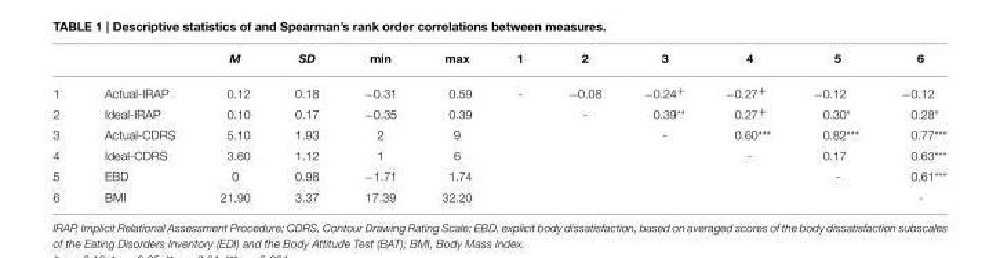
<table><thead><tr><td></td><td></td><td>M</td><td>SD</td><td>min</td><td>max</td><td>1</td><td>2</td><td>3</td><td>4</td><td>5</td><td>6</td></tr></thead><tbody><tr><td>1</td><td>Actual-IRAP</td><td>0.12</td><td>0.18</td><td>−0.31</td><td>0.59</td><td>-</td><td>−0.08</td><td>−0.24<sup>+</sup></td><td>−0.27<sup>+</sup></td><td>−0.12</td><td>−0.12</td></tr><tr><td>2</td><td>Ideal-IRAP</td><td>0.10</td><td>0.17</td><td>−0.35</td><td>0.39</td><td></td><td>-</td><td>0.39**</td><td>0.27<sup>+</sup></td><td>0.30*</td><td>0.28*</td></tr><tr><td>3</td><td>Actual-CDRS</td><td>5.10</td><td>1.93</td><td>2</td><td>9</td><td></td><td></td><td>-</td><td>0.60***</td><td>0.82***</td><td>0.77***</td></tr><tr><td>4</td><td>Ideal-CDRS</td><td>3.60</td><td>1.12</td><td>1</td><td>6</td><td></td><td></td><td></td><td>-</td><td>0.17</td><td>0.63***</td></tr><tr><td>5</td><td>EBD</td><td>0</td><td>0.98</td><td>−1.71</td><td>1.74</td><td></td><td></td><td></td><td></td><td>-</td><td>0.61***</td></tr><tr><td>6</td><td>BMI</td><td>21.90</td><td>3.37</td><td>17.39</td><td>32.20</td><td></td><td></td><td></td><td></td><td></td><td>-</td></tr></tbody></table>